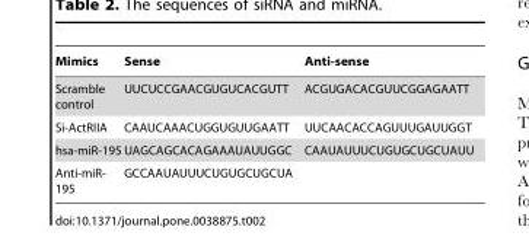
<table><thead><tr><td>Mimics</td><td>Sense</td><td>Anti-sense</td></tr></thead><tbody><tr><td>Scramble control</td><td>UUCUCCGAACGUGUCACGUTT</td><td>ACGUGACACGUUCGGAGAATT</td></tr><tr><td>Si-ActRIIA</td><td>CAAUCAAACUGGUGUUGAATT</td><td>UUCAACACCAGUUUGAUUGGT</td></tr><tr><td>hsa-miR-195</td><td>UAGCAGCACAGAAAUAUUGGC</td><td>CAAUAUUUCUGUGCUGCUAUU</td></tr><tr><td>Anti-miR- 195</td><td>GCCAAUAUUUCUGUGCUGCUA</td><td></td></tr></tbody></table>